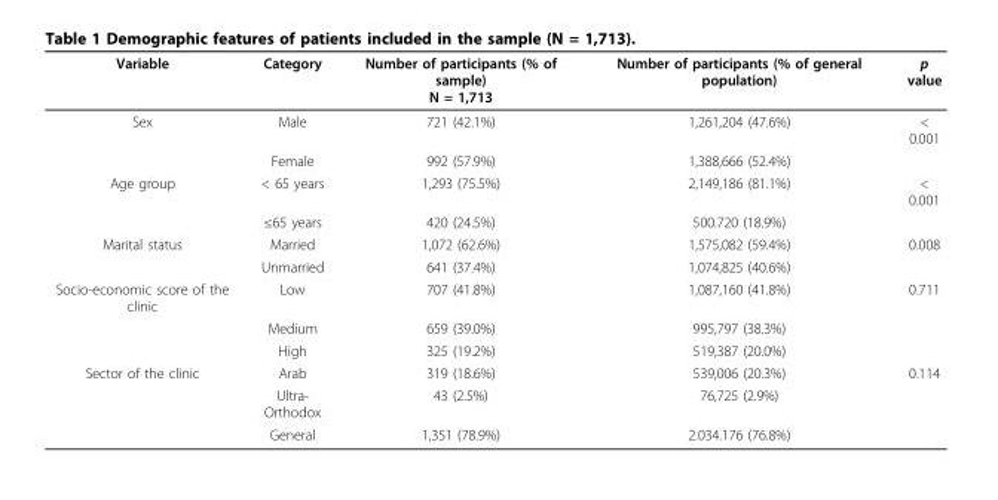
<table><thead><tr><td>Variable</td><td>Category</td><td>Number of participants (% of sample) N = 1,713</td><td>Number of participants (% of general population)</td><td>p value</td></tr></thead><tbody><tr><td rowspan="2">Sex</td><td>Male</td><td>721 (42.1%)</td><td>1,261,204 (47.6%)</td><td>&lt; 0.001</td></tr><tr><td>Female</td><td>992 (57.9%)</td><td>1,388,666 (52.4%)</td><td></td></tr><tr><td rowspan="2">Age group</td><td>&lt; 65 years</td><td>1,293 (75.5%)</td><td>2,149,186 (81.1%)</td><td>&lt; 0.001</td></tr><tr><td>≤65 years</td><td>420 (24.5%)</td><td>500.720 (18.9%)</td><td></td></tr><tr><td rowspan="2">Marital status</td><td>Married</td><td>1,072 (62.6%)</td><td>1,575,082 (59.4%)</td><td>0.008</td></tr><tr><td>Unmarried</td><td>641 (37.4%)</td><td>1,074,825 (40.6%)</td><td></td></tr><tr><td rowspan="3">Socio-economic score of the clinic</td><td>Low</td><td>707 (41.8%)</td><td>1,087,160 (41.8%)</td><td>0.711</td></tr><tr><td>Medium</td><td>659 (39.0%)</td><td>995,797 (38.3%)</td><td></td></tr><tr><td>High</td><td>325 (19.2%)</td><td>519,387 (20.0%)</td><td></td></tr><tr><td rowspan="3">Sector of the clinic</td><td>Arab</td><td>319 (18.6%)</td><td>539,006 (20.3%)</td><td>0.114</td></tr><tr><td>Ultra- Orthodox</td><td>43 (2.5%)</td><td>76,725 (2.9%)</td><td></td></tr><tr><td>General</td><td>1,351 (78.9%)</td><td>2.034.176 (76.8%)</td><td></td></tr></tbody></table>